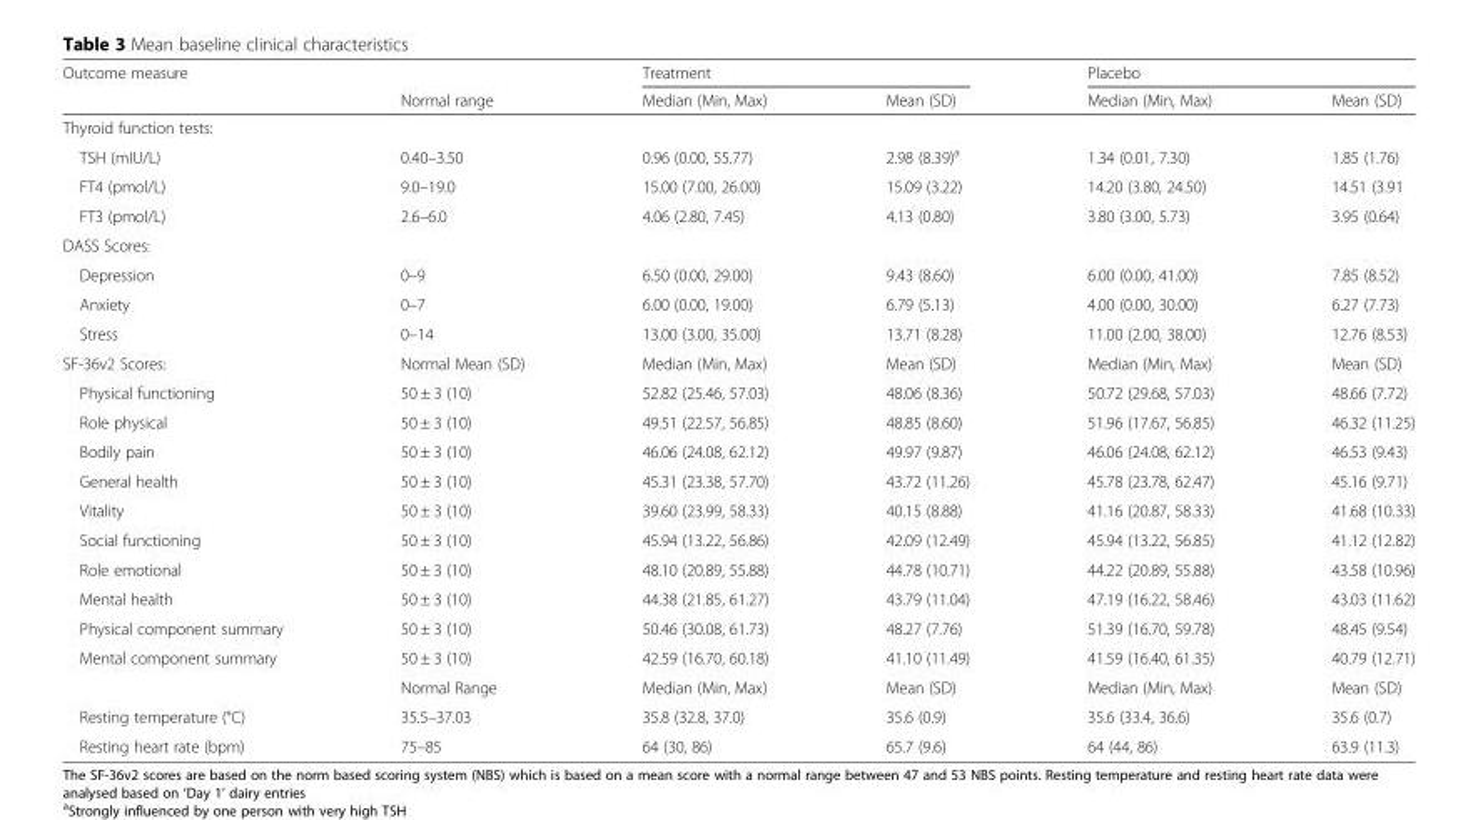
<table><thead><tr><td rowspan="2">Outcome measure</td><td rowspan="2">Normal range</td><td colspan="2">Treatment</td><td colspan="2">Placebo</td></tr><tr><td>Median (Min, Max)</td><td>Mean (SD)</td><td>Median (Min, Max)</td><td>Mean (SD)</td></tr></thead><tbody><tr><td colspan="6">Thyroid function tests:</td></tr><tr><td>TSH (mIU/L)</td><td>0.40–3.50</td><td>0.96 (0.00, 55.77)</td><td>2.98 (8.39)<sup>a</sup></td><td>1.34 (0.01, 7.30)</td><td>1.85 (1.76)</td></tr><tr><td>FT4 (pmol/L)</td><td>9.0–19.0</td><td>15.00 (7.00, 26.00)</td><td>15.09 (3.22)</td><td>14.20 (3.80, 24.50)</td><td>14.51 (3.91</td></tr><tr><td>FT3 (pmol/L)</td><td>2.6–6.0</td><td>4.06 (2.80, 7.45)</td><td>4.13 (0.80)</td><td>3.80 (3.00, 5.73)</td><td>3.95 (0.64)</td></tr><tr><td colspan="6">DASS Scores:</td></tr><tr><td>Depression</td><td>0–9</td><td>6.50 (0.00, 29.00)</td><td>9.43 (8.60)</td><td>6.00 (0.00, 41.00)</td><td>7.85 (8.52)</td></tr><tr><td>Anxiety</td><td>0–7</td><td>6.00 (0.00, 19.00)</td><td>6.79 (5.13)</td><td>4.00 (0.00, 30.00)</td><td>6.27 (7.73)</td></tr><tr><td>Stress</td><td>0–14</td><td>13.00 (3.00, 35.00)</td><td>13.71 (8.28)</td><td>11.00 (2.00, 38.00)</td><td>12.76 (8.53)</td></tr><tr><td>SF-36v2 Scores:</td><td>Normal Mean (SD)</td><td>Median (Min, Max)</td><td>Mean (SD)</td><td>Median (Min, Max)</td><td>Mean (SD)</td></tr><tr><td>Physical functioning</td><td>50 ± 3 (10)</td><td>52.82 (25.46, 57.03)</td><td>48.06 (8.36)</td><td>50.72 (29.68, 57.03)</td><td>48.66 (7.72)</td></tr><tr><td>Role physical</td><td>50 ± 3 (10)</td><td>49.51 (22.57, 56.85)</td><td>48.85 (8.60)</td><td>51.96 (17.67, 56.85)</td><td>46.32 (11.25)</td></tr><tr><td>Bodily pain</td><td>50 ± 3 (10)</td><td>46.06 (24.08, 62.12)</td><td>49.97 (9.87)</td><td>46.06 (24.08, 62.12)</td><td>46.53 (9.43)</td></tr><tr><td>General health</td><td>50 ± 3 (10)</td><td>45.31 (23.38, 57.70)</td><td>43.72 (11.26)</td><td>45.78 (23.78, 62.47)</td><td>45.16 (9.71)</td></tr><tr><td>Vitality</td><td>50 ± 3 (10)</td><td>39.60 (23.99, 58.33)</td><td>40.15 (8.88)</td><td>41.16 (20.87, 58.33)</td><td>41.68 (10.33)</td></tr><tr><td>Social functioning</td><td>50 ± 3 (10)</td><td>45.94 (13.22, 56.86)</td><td>42.09 (12.49)</td><td>45.94 (13.22, 56.85)</td><td>41.12 (12.82)</td></tr><tr><td>Role emotional</td><td>50 ± 3 (10)</td><td>48.10 (20.89, 55.88)</td><td>44.78 (10.71)</td><td>44.22 (20.89, 55.88)</td><td>43.58 (10.96)</td></tr><tr><td>Mental health</td><td>50 ± 3 (10)</td><td>44.38 (21.85, 61.27)</td><td>43.79 (11.04)</td><td>47.19 (16.22, 58.46)</td><td>43.03 (11.62)</td></tr><tr><td>Physical component summary</td><td>50 ± 3 (10)</td><td>50.46 (30.08, 61.73)</td><td>48.27 (7.76)</td><td>51.39 (16.70, 59.78)</td><td>48.45 (9.54)</td></tr><tr><td rowspan="2">Mental component summary</td><td>50 ± 3 (10)</td><td>42.59 (16.70, 60.18)</td><td>41.10 (11.49)</td><td>41.59 (16.40, 61.35)</td><td>40.79 (12.71)</td></tr><tr><td>Normal Range</td><td>Median (Min, Max)</td><td>Mean (SD)</td><td>Median (Min, Max)</td><td>Mean (SD)</td></tr><tr><td>Resting temperature (°C)</td><td>35.5–37.03</td><td>35.8 (32.8, 37.0)</td><td>35.6 (0.9)</td><td>35.6 (33.4, 36.6)</td><td>35.6 (0.7)</td></tr><tr><td>Resting heart rate (bpm)</td><td>75–85</td><td>64 (30, 86)</td><td>65.7 (9.6)</td><td>64 (44, 86)</td><td>63.9 (11.3)</td></tr></tbody></table>